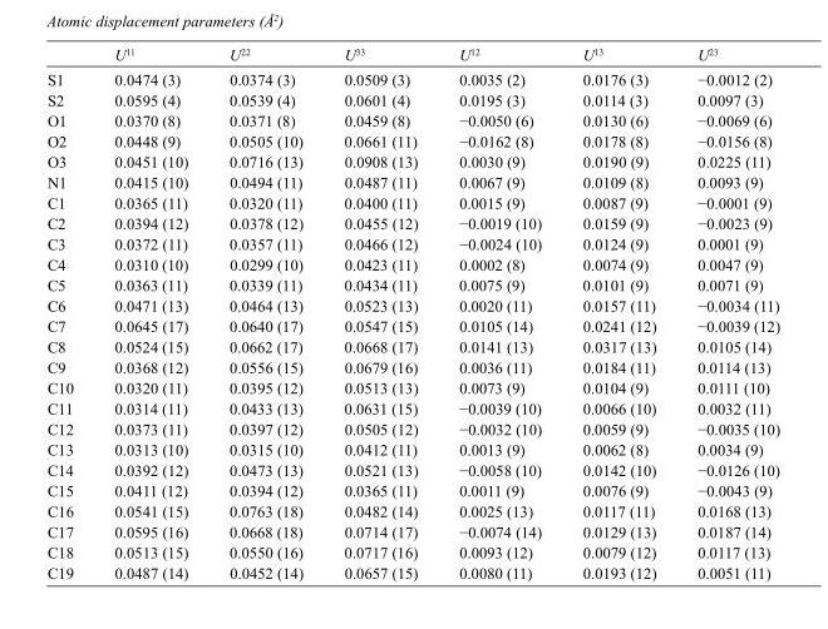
<table><thead><tr><td></td><td>U<sup>11</sup></td><td>U<sup>22</sup></td><td>U<sup>33</sup></td><td>U<sup>12</sup></td><td>U<sup>13</sup></td><td>U<sup>23</sup></td></tr></thead><tbody><tr><td>S1</td><td>0.0474 (3)</td><td>0.0374 (3)</td><td>0.0509 (3)</td><td>0.0035 (2)</td><td>0.0176 (3)</td><td>−0.0012 (2)</td></tr><tr><td>S2</td><td>0.0595 (4)</td><td>0.0539 (4)</td><td>0.0601 (4)</td><td>0.0195 (3)</td><td>0.0114 (3)</td><td>0.0097 (3)</td></tr><tr><td>O1</td><td>0.0370 (8)</td><td>0.0371 (8)</td><td>0.0459 (8)</td><td>−0.0050 (6)</td><td>0.0130 (6)</td><td>−0.0069 (6)</td></tr><tr><td>O2</td><td>0.0448 (9)</td><td>0.0505 (10)</td><td>0.0661 (11)</td><td>−0.0162 (8)</td><td>0.0178 (8)</td><td>−0.0156 (8)</td></tr><tr><td>O3</td><td>0.0451 (10)</td><td>0.0716 (13)</td><td>0.0908 (13)</td><td>0.0030 (9)</td><td>0.0190 (9)</td><td>0.0225 (11)</td></tr><tr><td>N1</td><td>0.0415 (10)</td><td>0.0494 (11)</td><td>0.0487 (11)</td><td>0.0067 (9)</td><td>0.0109 (8)</td><td>0.0093 (9)</td></tr><tr><td>C1</td><td>0.0365 (11)</td><td>0.0320 (11)</td><td>0.0400 (11)</td><td>0.0015 (9)</td><td>0.0087 (9)</td><td>−0.0001 (9)</td></tr><tr><td>C2</td><td>0.0394 (12)</td><td>0.0378 (12)</td><td>0.0455 (12)</td><td>−0.0019 (10)</td><td>0.0159 (9)</td><td>−0.0023 (9)</td></tr><tr><td>C3</td><td>0.0372 (11)</td><td>0.0357 (11)</td><td>0.0466 (12)</td><td>−0.0024 (10)</td><td>0.0124 (9)</td><td>0.0001 (9)</td></tr><tr><td>C4</td><td>0.0310 (10)</td><td>0.0299 (10)</td><td>0.0423 (11)</td><td>0.0002 (8)</td><td>0.0074 (9)</td><td>0.0047 (9)</td></tr><tr><td>C5</td><td>0.0363 (11)</td><td>0.0339 (11)</td><td>0.0434 (11)</td><td>0.0075 (9)</td><td>0.0101 (9)</td><td>0.0071 (9)</td></tr><tr><td>C6</td><td>0.0471 (13)</td><td>0.0464 (13)</td><td>0.0523 (13)</td><td>0.0020 (11)</td><td>0.0157 (11)</td><td>−0.0034 (11)</td></tr><tr><td>C7</td><td>0.0645 (17)</td><td>0.0640 (17)</td><td>0.0547 (15)</td><td>0.0105 (14)</td><td>0.0241 (12)</td><td>−0.0039 (12)</td></tr><tr><td>C8</td><td>0.0524 (15)</td><td>0.0662 (17)</td><td>0.0668 (17)</td><td>0.0141 (13)</td><td>0.0317 (13)</td><td>0.0105 (14)</td></tr><tr><td>C9</td><td>0.0368 (12)</td><td>0.0556 (15)</td><td>0.0679 (16)</td><td>0.0036 (11)</td><td>0.0184 (11)</td><td>0.0114 (13)</td></tr><tr><td>C10</td><td>0.0320 (11)</td><td>0.0395 (12)</td><td>0.0513 (13)</td><td>0.0073 (9)</td><td>0.0104 (9)</td><td>0.0111 (10)</td></tr><tr><td>C11</td><td>0.0314 (11)</td><td>0.0433 (13)</td><td>0.0631 (15)</td><td>−0.0039 (10)</td><td>0.0066 (10)</td><td>0.0032 (11)</td></tr><tr><td>C12</td><td>0.0373 (11)</td><td>0.0397 (12)</td><td>0.0505 (12)</td><td>−0.0032 (10)</td><td>0.0059 (9)</td><td>−0.0035 (10)</td></tr><tr><td>C13</td><td>0.0313 (10)</td><td>0.0315 (10)</td><td>0.0412 (11)</td><td>0.0013 (9)</td><td>0.0062 (8)</td><td>0.0034 (9)</td></tr><tr><td>C14</td><td>0.0392 (12)</td><td>0.0473 (13)</td><td>0.0521 (13)</td><td>−0.0058 (10)</td><td>0.0142 (10)</td><td>−0.0126 (10)</td></tr><tr><td>C15</td><td>0.0411 (12)</td><td>0.0394 (12)</td><td>0.0365 (11)</td><td>0.0011 (9)</td><td>0.0076 (9)</td><td>−0.0043 (9)</td></tr><tr><td>C16</td><td>0.0541 (15)</td><td>0.0763 (18)</td><td>0.0482 (14)</td><td>0.0025 (13)</td><td>0.0117 (11)</td><td>0.0168 (13)</td></tr><tr><td>C17</td><td>0.0595 (16)</td><td>0.0668 (18)</td><td>0.0714 (17)</td><td>−0.0074 (14)</td><td>0.0129 (13)</td><td>0.0187 (14)</td></tr><tr><td>C18</td><td>0.0513 (15)</td><td>0.0550 (16)</td><td>0.0717 (16)</td><td>0.0093 (12)</td><td>0.0079 (12)</td><td>0.0117 (13)</td></tr><tr><td>C19</td><td>0.0487 (14)</td><td>0.0452 (14)</td><td>0.0657 (15)</td><td>0.0080 (11)</td><td>0.0193 (12)</td><td>0.0051 (11)</td></tr></tbody></table>